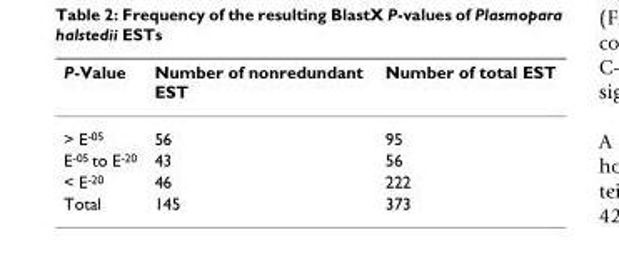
<table><thead><tr><td>P-Value</td><td>Number of nonredundant EST</td><td>Number of total EST</td></tr></thead><tbody><tr><td>&gt; E<sup>-05</sup></td><td>56</td><td>95</td></tr><tr><td>E<sup>-05</sup> to E<sup>-20</sup></td><td>43</td><td>56</td></tr><tr><td>&lt; E<sup>-20</sup></td><td>46</td><td>222</td></tr><tr><td>Total</td><td>145</td><td>373</td></tr></tbody></table>